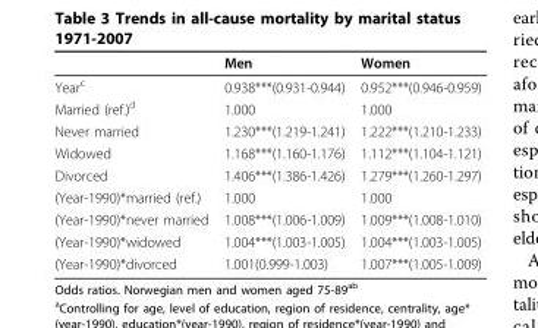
<table><thead><tr><td></td><td>Men</td><td>Women</td></tr></thead><tbody><tr><td>Year<sup>c</sup></td><td>0.938***(0.931-0.944)</td><td>0.952***(0.946-0.959)</td></tr><tr><td>Married (ref.)<sup>d</sup></td><td>1.000</td><td>1.000</td></tr><tr><td>Never married</td><td>1.230***(1.219-1.241)</td><td>1.222***(1.210-1.233)</td></tr><tr><td>Widowed</td><td>1.168***(1.160-1.176)</td><td>1.112***(1.104-1.121)</td></tr><tr><td>Divorced</td><td>1.406***(1.386-1.426)</td><td>1.279***(1.260-1.297)</td></tr><tr><td>(Year-1990)*married (ref.)</td><td>1.000</td><td>1.000</td></tr><tr><td>(Year-1990)*never married</td><td>1.008***(1.006-1.009)</td><td>1.009***(1.008-1.010)</td></tr><tr><td>(Year-1990)*widowed</td><td>1.004***(1.003-1.005)</td><td>1.004***(1.003-1.005)</td></tr><tr><td>(Year-1990)*divorced</td><td>1.001(0.999-1.003)</td><td>1.007***(1.005-1.009)</td></tr></tbody></table>